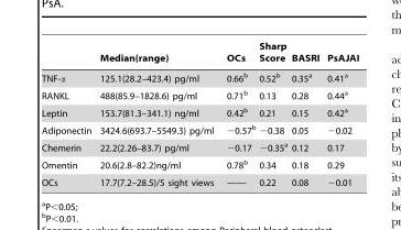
<table><thead><tr><td></td><td>Median(range)</td><td>OCs</td><td>Sharp Score</td><td>BASRI</td><td>PsAJAI</td></tr></thead><tbody><tr><td>TNF-α</td><td>125.1(28.2–423.4) pg/ml</td><td>0.66<sup>b</sup></td><td>0.52<sup>b</sup></td><td>0.35<sup>a</sup></td><td>0.41<sup>a</sup></td></tr><tr><td>RANKL</td><td>488(85.9–1828.6) pg/ml</td><td>0.71<sup>b</sup></td><td>0.13</td><td>0.28</td><td>0.44<sup>a</sup></td></tr><tr><td>Leptin</td><td>153.7(81.3–341.1) ng/ml</td><td>0.42<sup>b</sup></td><td>0.21</td><td>0.15</td><td>0.42<sup>a</sup></td></tr><tr><td>Adiponectin</td><td>3424.6(693.7–5549.3) pg/ml</td><td>−0.57<sup>b</sup></td><td>−0.38</td><td>0.05</td><td>−0.02</td></tr><tr><td>Chemerin</td><td>22.2(2.26–83.7) pg/ml</td><td>−0.17</td><td>−0.35<sup>a</sup></td><td>0.12</td><td>0.17</td></tr><tr><td>Omentin</td><td>20.6(2.8–82.2)ng/ml</td><td>0.78<sup>b</sup></td><td>0.34</td><td>0.18</td><td>0.29</td></tr><tr><td>OCs</td><td>17.7(7.2–28.5)/5 sight views</td><td>——</td><td>0.22</td><td>0.08</td><td>−0.01</td></tr></tbody></table>